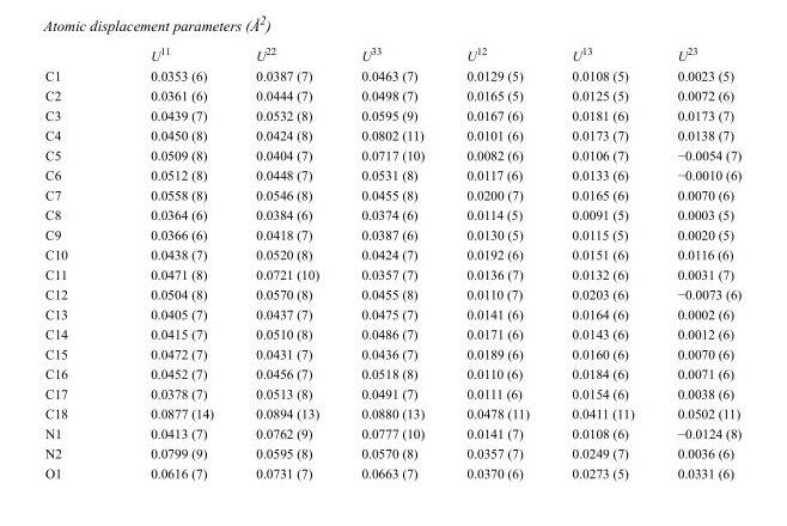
<table><thead><tr><td></td><td>U<sup>11</sup></td><td>U<sup>22</sup></td><td>U<sup>33</sup></td><td>U<sup>12</sup></td><td>U<sup>13</sup></td><td>U<sup>23</sup></td></tr></thead><tbody><tr><td>C1</td><td>0.0353 (6)</td><td>0.0387 (7)</td><td>0.0463 (7)</td><td>0.0129 (5)</td><td>0.0108 (5)</td><td>0.0023 (5)</td></tr><tr><td>C2</td><td>0.0361 (6)</td><td>0.0444 (7)</td><td>0.0498 (7)</td><td>0.0165 (5)</td><td>0.0125 (5)</td><td>0.0072 (6)</td></tr><tr><td>C3</td><td>0.0439 (7)</td><td>0.0532 (8)</td><td>0.0595 (9)</td><td>0.0167 (6)</td><td>0.0181 (6)</td><td>0.0173 (7)</td></tr><tr><td>C4</td><td>0.0450 (8)</td><td>0.0424 (8)</td><td>0.0802 (11)</td><td>0.0101 (6)</td><td>0.0173 (7)</td><td>0.0138 (7)</td></tr><tr><td>C5</td><td>0.0509 (8)</td><td>0.0404 (7)</td><td>0.0717 (10)</td><td>0.0082 (6)</td><td>0.0106 (7)</td><td>−0.0054 (7)</td></tr><tr><td>C6</td><td>0.0512 (8)</td><td>0.0448 (7)</td><td>0.0531 (8)</td><td>0.0117 (6)</td><td>0.0133 (6)</td><td>−0.0010 (6)</td></tr><tr><td>C7</td><td>0.0558 (8)</td><td>0.0546 (8)</td><td>0.0455 (8)</td><td>0.0200 (7)</td><td>0.0165 (6)</td><td>0.0070 (6)</td></tr><tr><td>C8</td><td>0.0364 (6)</td><td>0.0384 (6)</td><td>0.0374 (6)</td><td>0.0114 (5)</td><td>0.0091 (5)</td><td>0.0003 (5)</td></tr><tr><td>C9</td><td>0.0366 (6)</td><td>0.0418 (7)</td><td>0.0387 (6)</td><td>0.0130 (5)</td><td>0.0115 (5)</td><td>0.0020 (5)</td></tr><tr><td>C10</td><td>0.0438 (7)</td><td>0.0520 (8)</td><td>0.0424 (7)</td><td>0.0192 (6)</td><td>0.0151 (6)</td><td>0.0116 (6)</td></tr><tr><td>C11</td><td>0.0471 (8)</td><td>0.0721 (10)</td><td>0.0357 (7)</td><td>0.0136 (7)</td><td>0.0132 (6)</td><td>0.0031 (7)</td></tr><tr><td>C12</td><td>0.0504 (8)</td><td>0.0570 (8)</td><td>0.0455 (8)</td><td>0.0110 (7)</td><td>0.0203 (6)</td><td>−0.0073 (6)</td></tr><tr><td>C13</td><td>0.0405 (7)</td><td>0.0437 (7)</td><td>0.0475 (7)</td><td>0.0141 (6)</td><td>0.0164 (6)</td><td>0.0002 (6)</td></tr><tr><td>C14</td><td>0.0415 (7)</td><td>0.0510 (8)</td><td>0.0486 (7)</td><td>0.0171 (6)</td><td>0.0143 (6)</td><td>0.0012 (6)</td></tr><tr><td>C15</td><td>0.0472 (7)</td><td>0.0431 (7)</td><td>0.0436 (7)</td><td>0.0189 (6)</td><td>0.0160 (6)</td><td>0.0070 (6)</td></tr><tr><td>C16</td><td>0.0452 (7)</td><td>0.0456 (7)</td><td>0.0518 (8)</td><td>0.0110 (6)</td><td>0.0184 (6)</td><td>0.0071 (6)</td></tr><tr><td>C17</td><td>0.0378 (7)</td><td>0.0513 (8)</td><td>0.0491 (7)</td><td>0.0111 (6)</td><td>0.0154 (6)</td><td>0.0038 (6)</td></tr><tr><td>C18</td><td>0.0877 (14)</td><td>0.0894 (13)</td><td>0.0880 (13)</td><td>0.0478 (11)</td><td>0.0411 (11)</td><td>0.0502 (11)</td></tr><tr><td>N1</td><td>0.0413 (7)</td><td>0.0762 (9)</td><td>0.0777 (10)</td><td>0.0141 (7)</td><td>0.0108 (6)</td><td>−0.0124 (8)</td></tr><tr><td>N2</td><td>0.0799 (9)</td><td>0.0595 (8)</td><td>0.0570 (8)</td><td>0.0357 (7)</td><td>0.0249 (7)</td><td>0.0036 (6)</td></tr><tr><td>O1</td><td>0.0616 (7)</td><td>0.0731 (7)</td><td>0.0663 (7)</td><td>0.0370 (6)</td><td>0.0273 (5)</td><td>0.0331 (6)</td></tr></tbody></table>